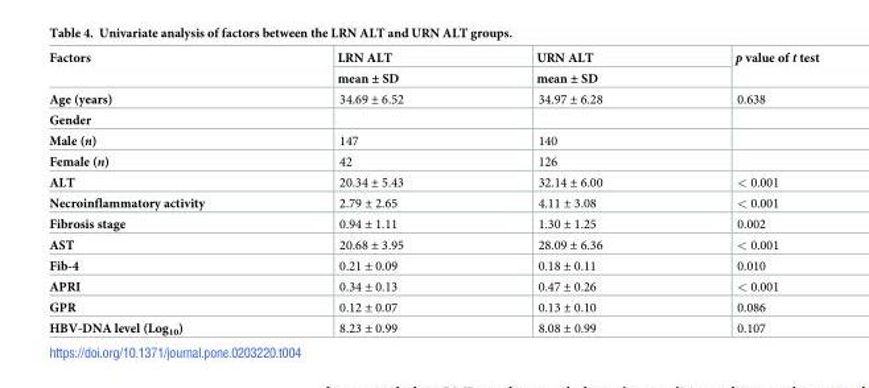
<table><thead><tr><td rowspan="2">Factors</td><td rowspan="2">LRN ALT mean ± SD</td><td rowspan="2">URN ALT mean ± SD</td><td rowspan="2">p value of t test</td></tr><tr></tr></thead><tbody><tr><td>Age (years)</td><td>34.69 ± 6.52</td><td>34.97 ± 6.28</td><td>0.638</td></tr><tr><td colspan="4">Gender</td></tr><tr><td>Male (n)</td><td>147</td><td>140</td><td></td></tr><tr><td>Female (n)</td><td>42</td><td>126</td><td></td></tr><tr><td>ALT</td><td>20.34 ± 5.43</td><td>32.14 ± 6.00</td><td>&lt; 0.001</td></tr><tr><td>Necroinflammatory activity</td><td>2.79 ± 2.65</td><td>4.11 ± 3.08</td><td>&lt; 0.001</td></tr><tr><td>Fibrosis stage</td><td>0.94 ± 1.11</td><td>1.30 ± 1.25</td><td>0.002</td></tr><tr><td>AST</td><td>20.68 ± 3.95</td><td>28.09 ± 6.36</td><td>&lt; 0.001</td></tr><tr><td>Fib-4</td><td>0.21 ± 0.09</td><td>0.18 ± 0.11</td><td>0.010</td></tr><tr><td>APRI</td><td>0.34 ± 0.13</td><td>0.47 ± 0.26</td><td>&lt; 0.001</td></tr><tr><td>GPR</td><td>0.12 ± 0.07</td><td>0.13 ± 0.10</td><td>0.086</td></tr><tr><td>HBV-DNA level (Log<sub>10</sub>)</td><td>8.23 ± 0.99</td><td>8.08 ± 0.99</td><td>0.107</td></tr></tbody></table>